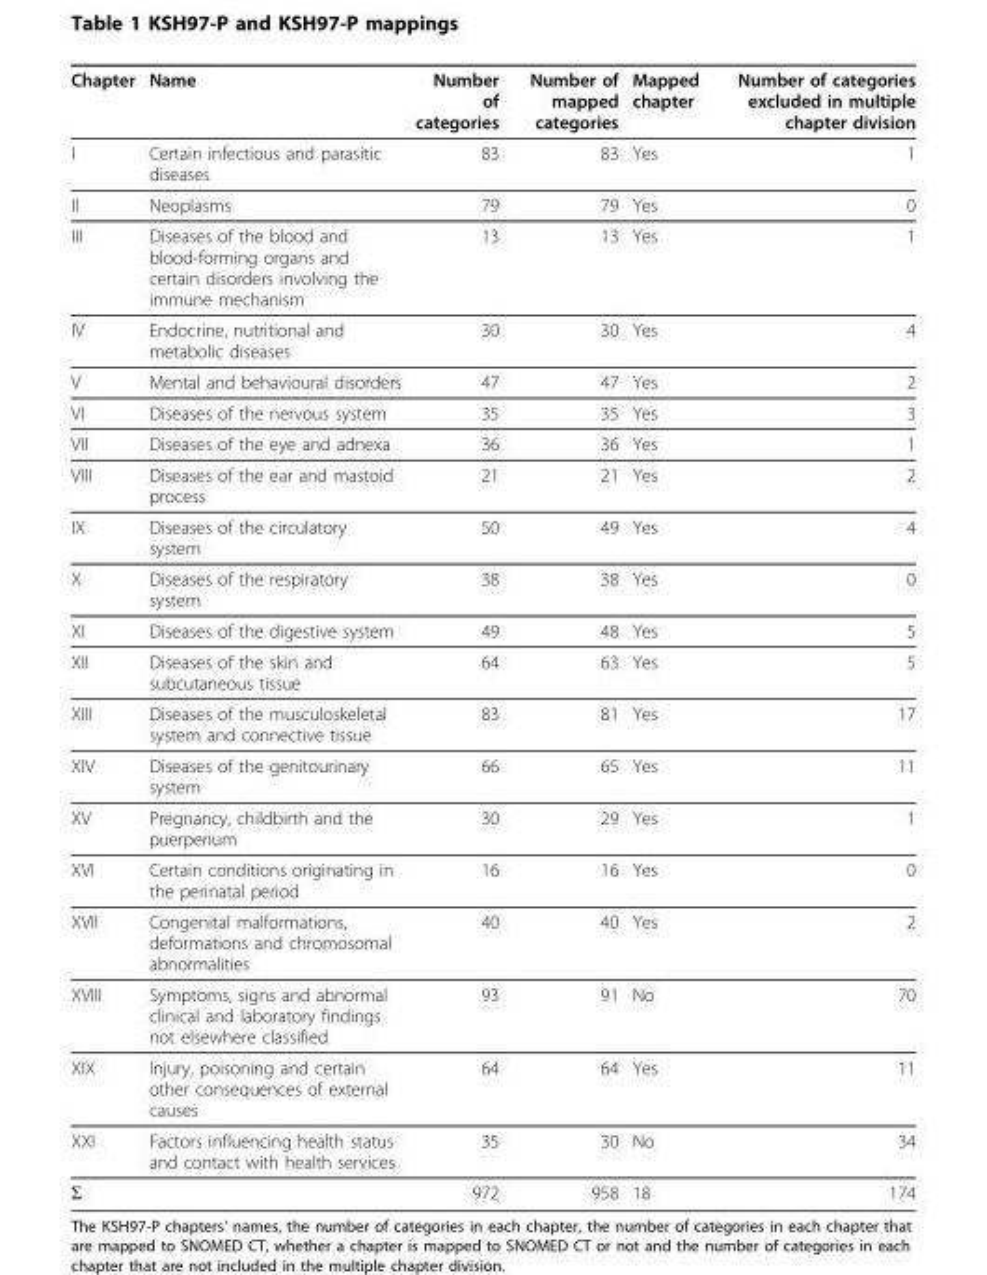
<table><thead><tr><td>Chapter</td><td>Name</td><td>Number of categories</td><td>Number of mapped categories</td><td>Mapped chapter</td><td>Number of categories excluded in multiple chapter division</td></tr></thead><tbody><tr><td>I</td><td>Certain infectious and parasitic diseases</td><td>83</td><td>83</td><td>Yes</td><td>1</td></tr><tr><td>II</td><td>Neoplasms</td><td>79</td><td>79</td><td>Yes</td><td>0</td></tr><tr><td>III</td><td>Diseases of the blood and blood-forming organs and certain disorders involving the immune mechanism</td><td>13</td><td>13</td><td>Yes</td><td>1</td></tr><tr><td>IV</td><td>Endocrine, nutritional and metabolic diseases</td><td>30</td><td>30</td><td>Yes</td><td>4</td></tr><tr><td>V</td><td>Mental and behavioural disorders</td><td>47</td><td>47</td><td>Yes</td><td>2</td></tr><tr><td>VI</td><td>Diseases of the nervous system</td><td>35</td><td>35</td><td>Yes</td><td>3</td></tr><tr><td>VII</td><td>Diseases of the eye and adnexa</td><td>36</td><td>36</td><td>Yes</td><td>1</td></tr><tr><td>VIII</td><td>Diseases of the ear and mastoid process</td><td>21</td><td>21</td><td>Yes</td><td>2</td></tr><tr><td>IX</td><td>Diseases of the circulatory system</td><td>50</td><td>49</td><td>Yes</td><td>4</td></tr><tr><td>X</td><td>Diseases of the respiratory system</td><td>38</td><td>38</td><td>Yes</td><td>0</td></tr><tr><td>XI</td><td>Diseases of the digestive system</td><td>49</td><td>48</td><td>Yes</td><td>5</td></tr><tr><td>XII</td><td>Diseases of the skin and subcutaneous tissue</td><td>64</td><td>63</td><td>Yes</td><td>5</td></tr><tr><td>XIII</td><td>Diseases of the musculoskeletal system and connective tissue</td><td>83</td><td>81</td><td>Yes</td><td>17</td></tr><tr><td>XIV</td><td>Diseases of the genitourinary system</td><td>66</td><td>65</td><td>Yes</td><td>11</td></tr><tr><td>XV</td><td>Pregnancy, childbirth and the puerperium</td><td>30</td><td>29</td><td>Yes</td><td>1</td></tr><tr><td>XVI</td><td>Certain conditions originating in the perinatal period</td><td>16</td><td>16</td><td>Yes</td><td>0</td></tr><tr><td>XVII</td><td>Congenital malformations, deformations and chromosomal abnormalities</td><td>40</td><td>40</td><td>Yes</td><td>2</td></tr><tr><td>XVIII</td><td>Symptoms, signs and abnormal clinical and laboratory findings not elsewhere classified</td><td>93</td><td>91</td><td>No</td><td>70</td></tr><tr><td>XIX</td><td>Injury, poisoning and certain other consequences of external causes</td><td>64</td><td>64</td><td>Yes</td><td>11</td></tr><tr><td>XXI</td><td>Factors influencing health status and contact with health services</td><td>35</td><td>30</td><td>No</td><td>34</td></tr><tr><td>Σ</td><td></td><td>972</td><td>958</td><td>18</td><td>174</td></tr></tbody></table>